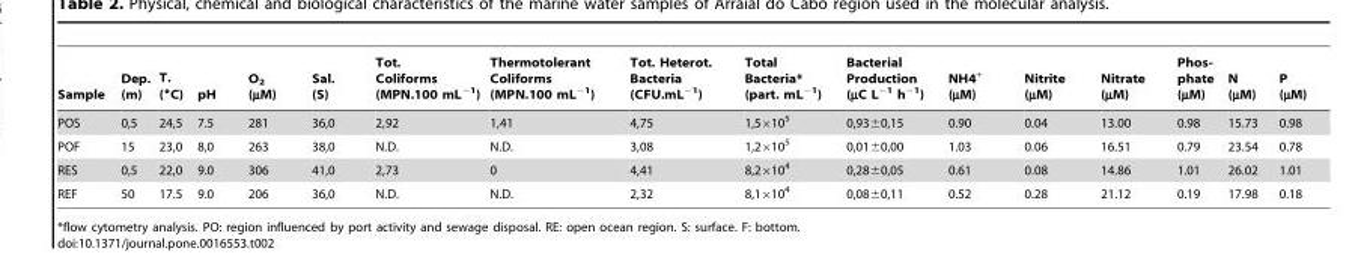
<table><thead><tr><td>Sample</td><td>Dep. (m)</td><td>T. (°C)</td><td>pH</td><td>O<sub>2</sub> (µM)</td><td>Sal. (S)</td><td>Tot. Coliforms (MPN.100 mL<sup>−1</sup>)</td><td>Thermotolerant Coliforms (MPN.100 mL<sup>−1</sup>)</td><td>Tot. Heterot. Bacteria (CFU.mL<sup>−1</sup>)</td><td>Total Bacteria* (part. mL<sup>−1</sup>)</td><td>Bacterial Production (µC L<sup>−1</sup> h<sup>−1</sup>)</td><td>NH4<sup>+</sup> (µM)</td><td>Nitrite (µM)</td><td>Nitrate (µM)</td><td>Phos- phate (mM)</td><td>N (µM)</td><td>P (µM)</td></tr></thead><tbody><tr><td>POS</td><td>0,5</td><td>24,5</td><td>7.5</td><td>281</td><td>36,0</td><td>2,92</td><td>1,41</td><td>4,75</td><td>1,5×10<sup>5</sup></td><td>0,93±0,15</td><td>0.90</td><td>0.04</td><td>13.00</td><td>0.98</td><td>15.73</td><td>0.98</td></tr><tr><td>POF</td><td>15</td><td>23,0</td><td>8,0</td><td>263</td><td>38,0</td><td>N.D.</td><td>N.D.</td><td>3,08</td><td>1,2×10<sup>5</sup></td><td>0,01±0,00</td><td>1.03</td><td>0.06</td><td>16.51</td><td>0.79</td><td>23.54</td><td>0.78</td></tr><tr><td>RES</td><td>0,5</td><td>22,0</td><td>9.0</td><td>306</td><td>41,0</td><td>2,73</td><td>0</td><td>4,41</td><td>8,2×10<sup>4</sup></td><td>0,28±0,05</td><td>0.61</td><td>0.08</td><td>14.86</td><td>1.01</td><td>26.02</td><td>1.01</td></tr><tr><td>REF</td><td>50</td><td>17.5</td><td>9.0</td><td>206</td><td>36,0</td><td>N.D.</td><td>N.D.</td><td>2,32</td><td>8,1×10<sup>4</sup></td><td>0,08±0,11</td><td>0.52</td><td>0.28</td><td>21.12</td><td>0.19</td><td>17.98</td><td>0.18</td></tr></tbody></table>